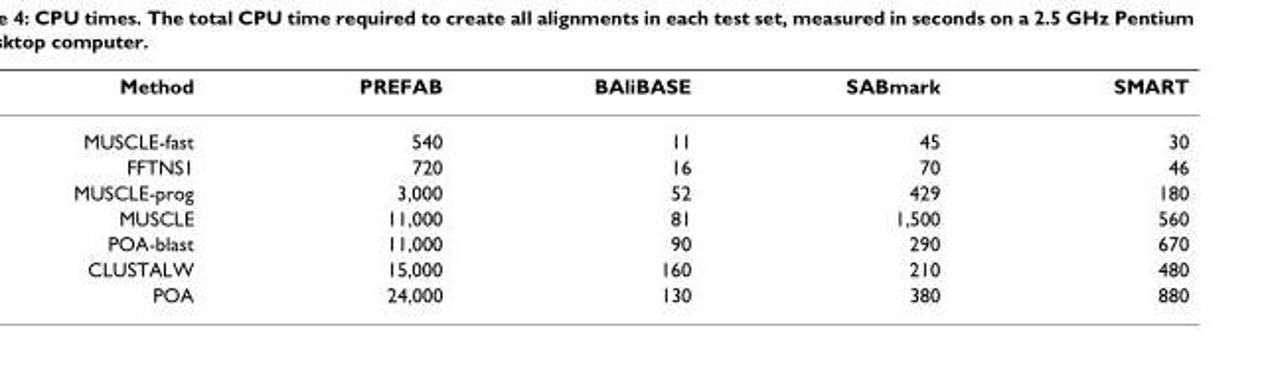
<table><thead><tr><td>Method</td><td>PREFAB</td><td>BAliBASE</td><td>SABmark</td><td>SMART</td></tr></thead><tbody><tr><td>MUSCLE-fast</td><td>540</td><td>11</td><td>45</td><td>30</td></tr><tr><td>FFTNS1</td><td>720</td><td>16</td><td>70</td><td>46</td></tr><tr><td>MUSCLE-prog</td><td>3,000</td><td>52</td><td>429</td><td>180</td></tr><tr><td>MUSCLE</td><td>11,000</td><td>81</td><td>1,500</td><td>560</td></tr><tr><td>POA-blast</td><td>11,000</td><td>90</td><td>290</td><td>670</td></tr><tr><td>CLUSTALW</td><td>15,000</td><td>160</td><td>210</td><td>480</td></tr><tr><td>POA</td><td>24,000</td><td>130</td><td>380</td><td>880</td></tr></tbody></table>